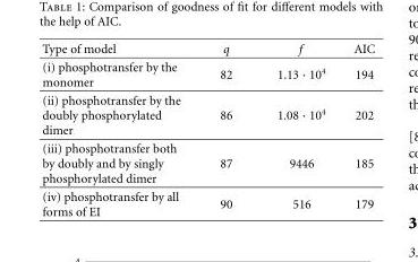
<table><thead><tr><td>Type of model</td><td>q</td><td>f</td><td>AIC</td></tr></thead><tbody><tr><td>(i) phosphotransfer by the monomer</td><td>82</td><td>1.13 · 10<sup>4</sup></td><td>194</td></tr><tr><td>(ii) phosphotransfer by the doubly phosphorylated dimer</td><td>86</td><td>1.08 · 10<sup>4</sup></td><td>202</td></tr><tr><td>(iii) phosphotransfer both by doubly and by singly phosphorylated dimer</td><td>87</td><td>9446</td><td>185</td></tr><tr><td>(iv) phosphotransfer by all forms of EI</td><td>90</td><td>516</td><td>179</td></tr></tbody></table>